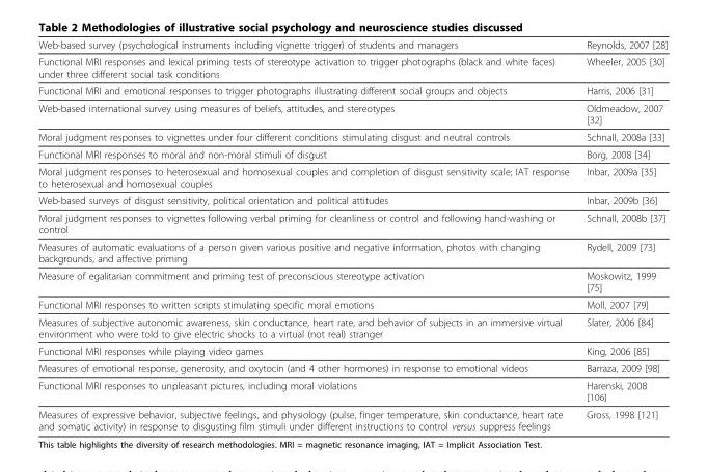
<table><thead><tr><td>Web-based survey (psychological instruments including vignette trigger) of students and managers</td><td>Reynolds, 2007 [28]</td></tr></thead><tbody><tr><td>Functional MRI responses and lexical priming tests of stereotype activation to trigger photographs (black and white faces) under three different social task conditions</td><td>Wheeler, 2005 [30]</td></tr><tr><td>Functional MRI and emotional responses to trigger photographs illustrating different social groups and objects</td><td>Harris, 2006 [31]</td></tr><tr><td>Web-based international survey using measures of beliefs, attitudes, and stereotypes</td><td>Oldmeadow, 2007 [32]</td></tr><tr><td>Moral judgment responses to vignettes under four different conditions stimulating disgust and neutral controls</td><td>Schnall, 2008a [33]</td></tr><tr><td>Functional MRI responses to moral and non-moral stimuli of disgust</td><td>Borg, 2008 [34]</td></tr><tr><td>Moral judgment responses to heterosexual and homosexual couples and completion of disgust sensitivity scale; IAT response to heterosexual and homosexual couples</td><td>Inbar, 2009a [35]</td></tr><tr><td>Web-based surveys of disgust sensitivity, political orientation and political attitudes</td><td>Inbar, 2009b [36]</td></tr><tr><td>Moral judgment responses to vignettes following verbal priming for cleanliness or control and following hand-washing or control</td><td>Schnall, 2008b [37]</td></tr><tr><td>Measures of automatic evaluations of a person given various positive and negative information, photos with changing backgrounds, and affective priming</td><td>Rydell, 2009 [73]</td></tr><tr><td>Measure of egalitarian commitment and priming test of preconscious stereotype activation</td><td>Moskowitz, 1999 [75]</td></tr><tr><td>Functional MRI responses to written scripts stimulating specific moral emotions</td><td>Moll, 2007 [79]</td></tr><tr><td>Measures of subjective autonomic awareness, skin conductance, heart rate, and behavior of subjects in an immersive virtual environment who were told to give electric shocks to a virtual (not real) stranger</td><td>Slater, 2006 [84]</td></tr><tr><td>Functional MRI responses while playing video games</td><td>King, 2006 [85]</td></tr><tr><td>Measures of emotional response, generosity, and oxytocin (and 4 other hormones) in response to emotional videos</td><td>Barraza, 2009 [98]</td></tr><tr><td>Functional MRI responses to unpleasant pictures, including moral violations</td><td>Harenski, 2008 [106]</td></tr><tr><td>Measures of expressive behavior, subjective feelings, and physiology (pulse, finger temperature, skin conductance, heart rate and somatic activity) in response to disgusting film stimuli under different instructions to control versus suppress feelings</td><td>Gross, 1998 [121]</td></tr></tbody></table>